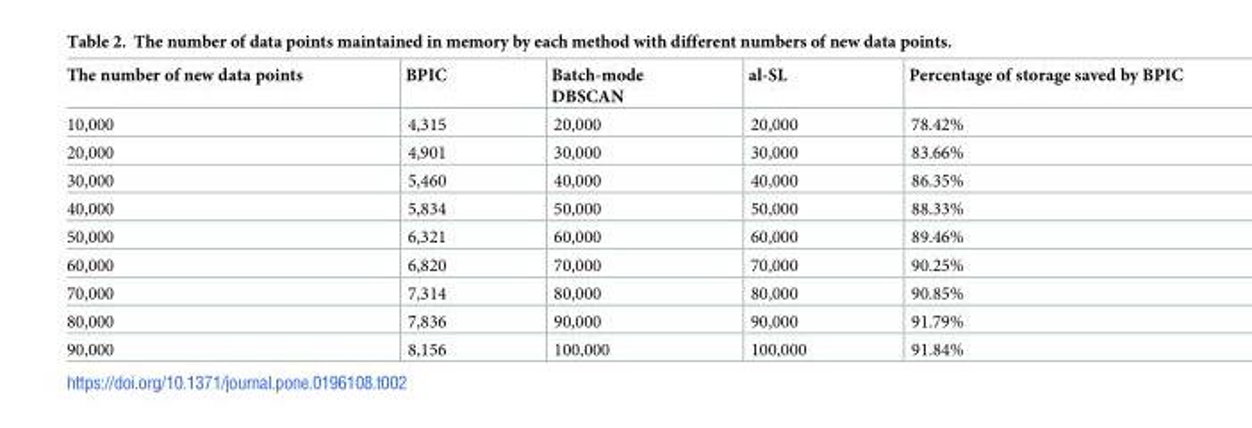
<table><thead><tr><td>The number of new data points</td><td>BPIC</td><td>Batch-mode DBSCAN</td><td>al-SL</td><td>Percentage of storage saved by BPIC</td></tr></thead><tbody><tr><td>10,000</td><td>4,315</td><td>20,000</td><td>20,000</td><td>78.42%</td></tr><tr><td>20,000</td><td>4,901</td><td>30,000</td><td>30,000</td><td>83.66%</td></tr><tr><td>30,000</td><td>5,460</td><td>40,000</td><td>40,000</td><td>86.35%</td></tr><tr><td>40,000</td><td>5,834</td><td>50,000</td><td>50,000</td><td>88.33%</td></tr><tr><td>50,000</td><td>6,321</td><td>60,000</td><td>60,000</td><td>89.46%</td></tr><tr><td>60,000</td><td>6,820</td><td>70,000</td><td>70,000</td><td>90.25%</td></tr><tr><td>70,000</td><td>7,314</td><td>80,000</td><td>80,000</td><td>90.85%</td></tr><tr><td>80,000</td><td>7,836</td><td>90,000</td><td>90,000</td><td>91.79%</td></tr><tr><td>90,000</td><td>8,156</td><td>100,000</td><td>100,000</td><td>91.84%</td></tr></tbody></table>